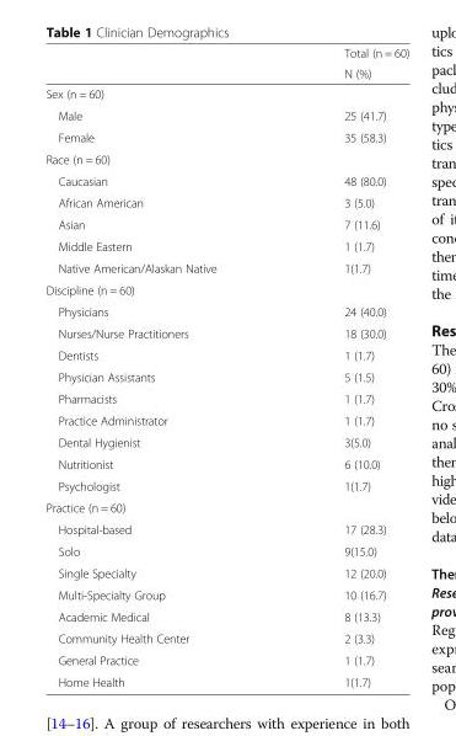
<table><thead><tr><td rowspan="2"></td><td rowspan="2">Total (n = 60) N (%)</td></tr><tr></tr></thead><tbody><tr><td colspan="2">Sex (n = 60)</td></tr><tr><td>Male</td><td>25 (41.7)</td></tr><tr><td>Female</td><td>35 (58.3)</td></tr><tr><td colspan="2">Race (n = 60)</td></tr><tr><td>Caucasian</td><td>48 (80.0)</td></tr><tr><td>African American</td><td>3 (5.0)</td></tr><tr><td>Asian</td><td>7 (11.6)</td></tr><tr><td>Middle Eastern</td><td>1 (1.7)</td></tr><tr><td>Native American/Alaskan Native</td><td>1(1.7)</td></tr><tr><td colspan="2">Discipline (n = 60)</td></tr><tr><td>Physicians</td><td>24 (40.0)</td></tr><tr><td>Nurses/Nurse Practitioners</td><td>18 (30.0)</td></tr><tr><td>Dentists</td><td>1 (1.7)</td></tr><tr><td>Physician Assistants</td><td>5 (1.5)</td></tr><tr><td>Pharmacists</td><td>1 (1.7)</td></tr><tr><td>Practice Administrator</td><td>1 (1.7)</td></tr><tr><td>Dental Hygienist</td><td>3(5.0)</td></tr><tr><td>Nutritionist</td><td>6 (10.0)</td></tr><tr><td>Psychologist</td><td>1(1.7)</td></tr><tr><td colspan="2">Practice (n = 60)</td></tr><tr><td>Hospital-based</td><td>17 (28.3)</td></tr><tr><td>Solo</td><td>9(15.0)</td></tr><tr><td>Single Specialty</td><td>12 (20.0)</td></tr><tr><td>Multi-Specialty Group</td><td>10 (16.7)</td></tr><tr><td>Academic Medical</td><td>8 (13.3)</td></tr><tr><td>Community Health Center</td><td>2 (3.3)</td></tr><tr><td>General Practice</td><td>1 (1.7)</td></tr><tr><td>Home Health</td><td>1(1.7)</td></tr></tbody></table>